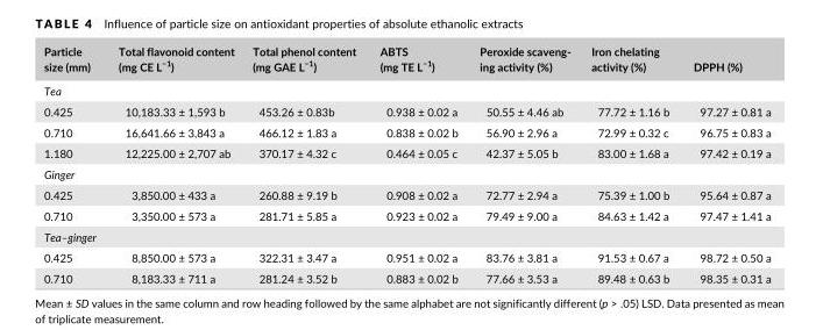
<table><thead><tr><td>Particle size (mm)</td><td>Total flavonoid content (mg CE L<sup>−1</sup>)</td><td>Total phenol content (mg GAE L<sup>−1</sup>)</td><td>ABTS (mg TE L<sup>−1</sup>)</td><td>Peroxide scaveng- ing activity (%)</td><td>Iron chelating activity (%)</td><td>DPPH (%)</td></tr></thead><tbody><tr><td colspan="7">Tea</td></tr><tr><td>0.425</td><td>10,183.33 ± 1,593 b</td><td>453.26 ± 0.83b</td><td>0.938 ± 0.02 a</td><td>50.55 ± 4.46 ab</td><td>77.72 ± 1.16 b</td><td>97.27 ± 0.81 a</td></tr><tr><td>0.710</td><td>16,641.66 ± 3,843 a</td><td>466.12 ± 1.83 a</td><td>0.838 ± 0.02 b</td><td>56.90 ± 2.96 a</td><td>72.99 ± 0.32 c</td><td>96.75 ± 0.83 a</td></tr><tr><td>1.180</td><td>12,225.00 ± 2,707 ab</td><td>370.17 ± 4.32 c</td><td>0.464 ± 0.05 c</td><td>42.37 ± 5.05 b</td><td>83.00 ± 1.68 a</td><td>97.42 ± 0.19 a</td></tr><tr><td colspan="7">Ginger</td></tr><tr><td>0.425</td><td>3,850.00 ± 433 a</td><td>260.88 ± 9.19 b</td><td>0.908 ± 0.02 a</td><td>72.77 ± 2.94 a</td><td>75.39 ± 1.00 b</td><td>95.64 ± 0.87 a</td></tr><tr><td>0.710</td><td>3,350.00 ± 573 a</td><td>281.71 ± 5.85 a</td><td>0.923 ± 0.02 a</td><td>79.49 ± 9.00 a</td><td>84.63 ± 1.42 a</td><td>97.47 ± 1.41 a</td></tr><tr><td colspan="7">Tea–ginger</td></tr><tr><td>0.425</td><td>8,850.00 ± 573 a</td><td>322.31 ± 3.47 a</td><td>0.951 ± 0.02 a</td><td>83.76 ± 3.81 a</td><td>91.53 ± 0.67 a</td><td>98.72 ± 0.50 a</td></tr><tr><td>0.710</td><td>8,183.33 ± 711 a</td><td>281.24 ± 3.52 b</td><td>0.883 ± 0.02 b</td><td>77.66 ± 3.53 a</td><td>89.48 ± 0.63 b</td><td>98.35 ± 0.31 a</td></tr></tbody></table>